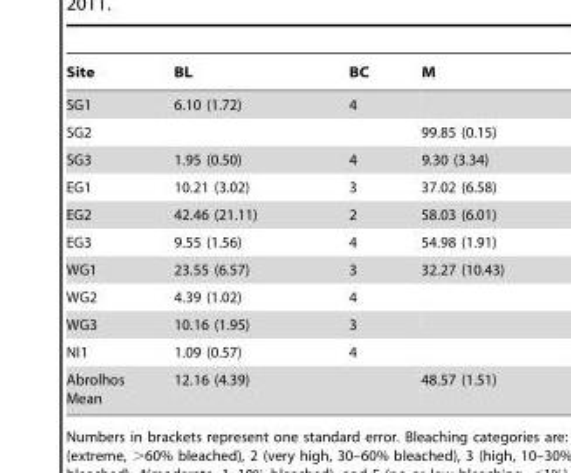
<table><thead><tr><td>Site</td><td>BL</td><td>BC</td><td>M</td></tr></thead><tbody><tr><td>SG1</td><td>6.10 (1.72)</td><td>4</td><td></td></tr><tr><td>SG2</td><td></td><td></td><td>99.85 (0.15)</td></tr><tr><td>SG3</td><td>1.95 (0.50)</td><td>4</td><td>9.30 (3.34)</td></tr><tr><td>EG1</td><td>10.21 (3.02)</td><td>3</td><td>37.02 (6.58)</td></tr><tr><td>EG2</td><td>42.46 (21.11)</td><td>2</td><td>58.03 (6.01)</td></tr><tr><td>EG3</td><td>9.55 (1.56)</td><td>4</td><td>54.98 (1.91)</td></tr><tr><td>WG1</td><td>23.55 (6.57)</td><td>3</td><td>32.27 (10.43)</td></tr><tr><td>WG2</td><td>4.39 (1.02)</td><td>4</td><td></td></tr><tr><td>WG3</td><td>10.16 (1.95)</td><td>3</td><td></td></tr><tr><td>NI1</td><td>1.09 (0.57)</td><td>4</td><td></td></tr><tr><td>Abrolhos Mean</td><td>12.16 (4.39)</td><td></td><td>48.57 (1.51)</td></tr></tbody></table>